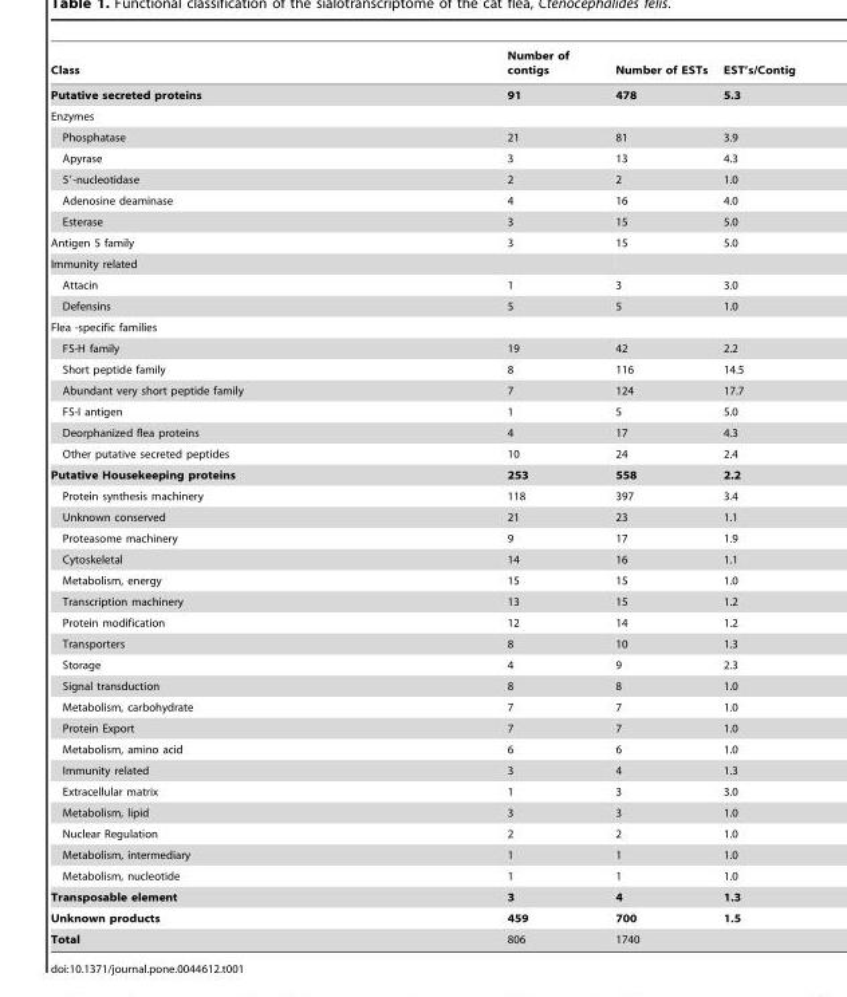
<table><thead><tr><td>Class</td><td>Number of contigs</td><td>Number of ESTs</td><td>EST’s/Contig</td></tr></thead><tbody><tr><td>Putative secreted proteins</td><td>91</td><td>478</td><td>5.3</td></tr><tr><td colspan="4">Enzymes</td></tr><tr><td>Phosphatase</td><td>21</td><td>81</td><td>3.9</td></tr><tr><td>Apyrase</td><td>3</td><td>13</td><td>4.3</td></tr><tr><td>5′-nucleotidase</td><td>2</td><td>2</td><td>1.0</td></tr><tr><td>Adenosine deaminase</td><td>4</td><td>16</td><td>4.0</td></tr><tr><td>Esterase</td><td>3</td><td>15</td><td>5.0</td></tr><tr><td>Antigen 5 family</td><td>3</td><td>15</td><td>5.0</td></tr><tr><td colspan="4">Immunity related</td></tr><tr><td>Attacin</td><td>1</td><td>3</td><td>3.0</td></tr><tr><td>Defensins</td><td>5</td><td>5</td><td>1.0</td></tr><tr><td colspan="4">Flea -specific families</td></tr><tr><td>FS-H family</td><td>19</td><td>42</td><td>2.2</td></tr><tr><td>Short peptide family</td><td>8</td><td>116</td><td>14.5</td></tr><tr><td>Abundant very short peptide family</td><td>7</td><td>124</td><td>17.7</td></tr><tr><td>FS-I antigen</td><td>1</td><td>5</td><td>5.0</td></tr><tr><td>Deorphanized flea proteins</td><td>4</td><td>17</td><td>4.3</td></tr><tr><td>Other putative secreted peptides</td><td>10</td><td>24</td><td>2.4</td></tr><tr><td>Putative Housekeeping proteins</td><td>253</td><td>558</td><td>2.2</td></tr><tr><td>Protein synthesis machinery</td><td>118</td><td>397</td><td>3.4</td></tr><tr><td>Unknown conserved</td><td>21</td><td>23</td><td>1.1</td></tr><tr><td>Proteasome machinery</td><td>9</td><td>17</td><td>1.9</td></tr><tr><td>Cytoskeletal</td><td>14</td><td>16</td><td>1.1</td></tr><tr><td>Metabolism, energy</td><td>15</td><td>15</td><td>1.0</td></tr><tr><td>Transcription machinery</td><td>13</td><td>15</td><td>1.2</td></tr><tr><td>Protein modification</td><td>12</td><td>14</td><td>1.2</td></tr><tr><td>Transporters</td><td>8</td><td>10</td><td>1.3</td></tr><tr><td>Storage</td><td>4</td><td>9</td><td>2.3</td></tr><tr><td>Signal transduction</td><td>8</td><td>8</td><td>1.0</td></tr><tr><td>Metabolism, carbohydrate</td><td>7</td><td>7</td><td>1.0</td></tr><tr><td>Protein Export</td><td>7</td><td>7</td><td>1.0</td></tr><tr><td>Metabolism, amino acid</td><td>6</td><td>6</td><td>1.0</td></tr><tr><td>Immunity related</td><td>3</td><td>4</td><td>1.3</td></tr><tr><td>Extracellular matrix</td><td>1</td><td>3</td><td>3.0</td></tr><tr><td>Metabolism, lipid</td><td>3</td><td>3</td><td>1.0</td></tr><tr><td>Nuclear Regulation</td><td>2</td><td>2</td><td>1.0</td></tr><tr><td>Metabolism, intermediary</td><td>1</td><td>1</td><td>1.0</td></tr><tr><td>Metabolism, nucleotide</td><td>1</td><td>1</td><td>1.0</td></tr><tr><td>Transposable element</td><td>3</td><td>4</td><td>1.3</td></tr><tr><td>Unknown products</td><td>459</td><td>700</td><td>1.5</td></tr><tr><td>Total</td><td>806</td><td>1740</td><td></td></tr></tbody></table>